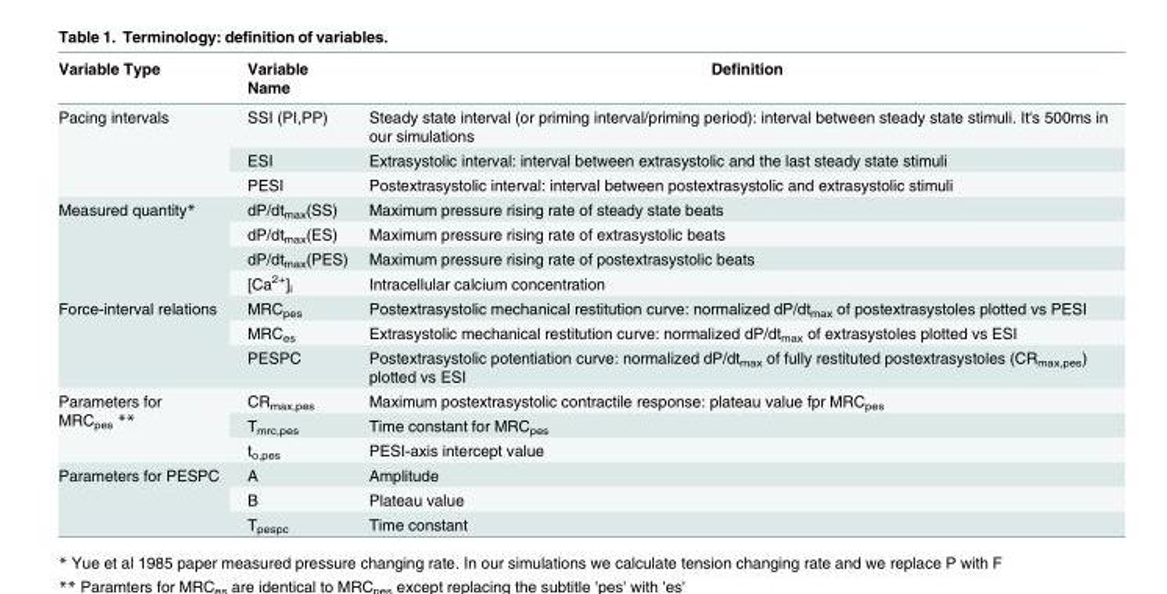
<table><thead><tr><td>Variable Type</td><td>Variable Name</td><td>Definition</td></tr></thead><tbody><tr><td rowspan="3">Pacing intervals</td><td>SSI (PI,PP)</td><td>Steady state interval (or priming interval/priming period): interval between steady state stimuli. It&#x27;s 500ms in our simulations</td></tr><tr><td>ESI</td><td>Extrasystolic interval: interval between extrasystolic and the last steady state stimuli</td></tr><tr><td>PESI</td><td>Postextrasystolic interval: interval between postextrasystolic and extrasystolic stimuli</td></tr><tr><td rowspan="4">Measured quantity*</td><td>dP/dt<sub>max</sub>(SS)</td><td>Maximum pressure rising rate of steady state beats</td></tr><tr><td>dP/dt<sub>max</sub>(ES)</td><td>Maximum pressure rising rate of extrasystolic beats</td></tr><tr><td>dP/dt<sub>max</sub>(PES)</td><td>Maximum pressure rising rate of postextrasystolic beats</td></tr><tr><td>[Ca<sup>2+</sup>]<sub>i</sub></td><td>Intracellular calcium concentration</td></tr><tr><td rowspan="3">Force-interval relations</td><td>MRC<sub>pes</sub></td><td>Postextrasystolic mechanical restitution curve: normalized dP/dt<sub>max</sub> of postextrasystoles plotted vs PESI</td></tr><tr><td>MRC<sub>es</sub></td><td>Extrasystolic mechanical restitution curve: normalized dP/dt<sub>max</sub> of extrasystoles plotted vs ESI</td></tr><tr><td>PESPC</td><td>Postextrasystolic potentiation curve: normalized dP/dt<sub>max</sub> of fully restituted postextrasystoles (CR<sub>max,pes</sub>) plotted vs ESI</td></tr><tr><td rowspan="3">Parameters for MRC<sub>pes</sub> **</td><td>CR<sub>max,pes</sub></td><td>Maximum postextrasystolic contractile response: plateau value fpr MRC<sub>pes</sub></td></tr><tr><td>T<sub>mrc,pes</sub></td><td>Time constant for MRC<sub>pes</sub></td></tr><tr><td>t<sub>o,pes</sub></td><td>PESI-axis intercept value</td></tr><tr><td rowspan="3">Parameters for PESPC</td><td>A</td><td>Amplitude</td></tr><tr><td>B</td><td>Plateau value</td></tr><tr><td>T<sub>pespc</sub></td><td>Time constant</td></tr></tbody></table>